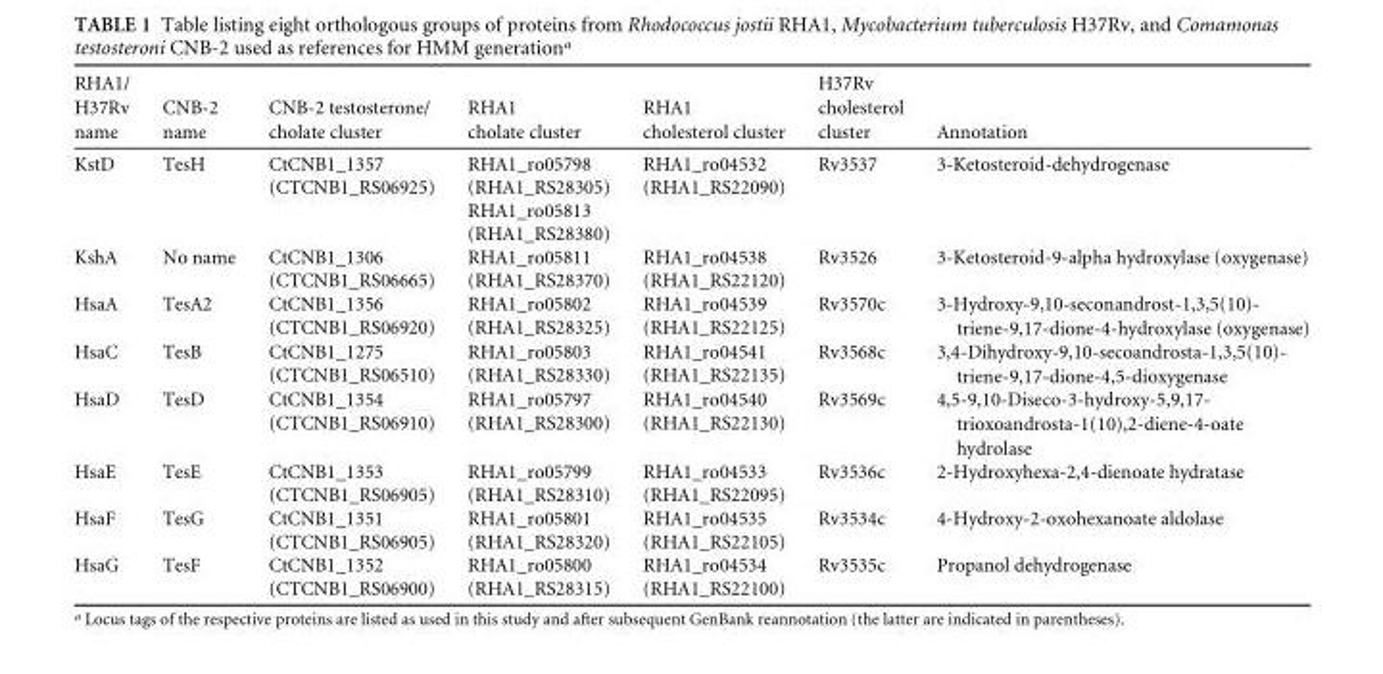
<table><thead><tr><td>RHA1/ H37Rv name</td><td>CNB-2 name</td><td>CNB-2 testosterone/ cholate cluster</td><td>RHA1 cholate cluster</td><td>RHA1 cholesterol cluster</td><td>H37Rv cholesterol cluster</td><td>Annotation</td></tr></thead><tbody><tr><td rowspan="4">KstD</td><td>TesH</td><td>CtCNB1_1357</td><td>RHA1_ro05798</td><td>RHA1_ro04532</td><td rowspan="4">Rv3537</td><td rowspan="4">3-Ketosteroid-dehydrogenase</td></tr><tr><td></td><td>(CTCNB1_RS06925)</td><td>(RHA1_RS28305)</td><td>(RHA1_RS22090)</td></tr><tr><td></td><td></td><td>RHA1_ro05813</td><td></td></tr><tr><td></td><td></td><td>(RHA1_RS28380)</td><td></td></tr><tr><td rowspan="2">KshA</td><td>No name</td><td>CtCNB1_1306</td><td>RHA1_ro05811</td><td>RHA1_ro04538</td><td rowspan="2">Rv3526</td><td rowspan="2">3-Ketosteroid-9-alpha hydroxylase (oxygenase)</td></tr><tr><td></td><td>(CTCNB1_RS06665)</td><td>(RHA1_RS28370)</td><td>(RHA1_RS22120)</td></tr><tr><td rowspan="2">HsaA</td><td>TesA2</td><td>CtCNB1_1356</td><td>RHA1_ro05802</td><td>RHA1_ro04539</td><td rowspan="2">Rv3570c</td><td rowspan="2">3-Hydroxy-9,10-seconandrost-1,3,5(10)- triene-9,17-dione-4-hydroxylase (oxygenase)</td></tr><tr><td></td><td>(CTCNB1_RS06920)</td><td>(RHA1_RS28325)</td><td>(RHA1_RS22125)</td></tr><tr><td rowspan="2">HsaC</td><td>TesB</td><td>CtCNB1_1275</td><td>RHA1_ro05803</td><td>RHA1_ro04541</td><td rowspan="2">Rv3568c</td><td rowspan="2">3,4-Dihydroxy-9,10-secoandrosta-1,3,5(10)- triene-9,17-dione-4,5-dioxygenase</td></tr><tr><td></td><td>(CTCNB1_RS06510)</td><td>(RHA1_RS28330)</td><td>(RHA1_RS22135)</td></tr><tr><td rowspan="2">HsaD</td><td>TesD</td><td>CtCNB1_1354</td><td>RHA1_ro05797</td><td>RHA1_ro04540</td><td rowspan="2">Rv3569c</td><td rowspan="2">4,5-9,10-Diseco-3-hydroxy-5,9,17- trioxoandrosta-1(10),2-diene-4-oate hydrolase</td></tr><tr><td></td><td>(CTCNB1_RS06910)</td><td>(RHA1_RS28300)</td><td>(RHA1_RS22130)</td></tr><tr><td rowspan="2">HsaE</td><td>TesE</td><td>CtCNB1_1353</td><td>RHA1_ro05799</td><td>RHA1_ro04533</td><td rowspan="2">Rv3536c</td><td rowspan="2">2-Hydroxyhexa-2,4-dienoate hydratase</td></tr><tr><td></td><td>(CTCNB1_RS06905)</td><td>(RHA1_RS28310)</td><td>(RHA1_RS22095)</td></tr><tr><td rowspan="2">HsaF</td><td>TesG</td><td>CtCNB1_1351</td><td>RHA1_ro05801</td><td>RHA1_ro04535</td><td rowspan="2">Rv3534c</td><td rowspan="2">4-Hydroxy-2-oxohexanoate aldolase</td></tr><tr><td></td><td>(CTCNB1_RS06905)</td><td>(RHA1_RS28320)</td><td>(RHA1_RS22105)</td></tr><tr><td rowspan="2">HsaG</td><td>TesF</td><td>CtCNB1_1352</td><td>RHA1_ro05800</td><td>RHA1_ro04534</td><td rowspan="2">Rv3535c</td><td rowspan="2">Propanol dehydrogenase</td></tr><tr><td></td><td>(CTCNB1_RS06900)</td><td>(RHA1_RS28315)</td><td>(RHA1_RS22100)</td></tr></tbody></table>